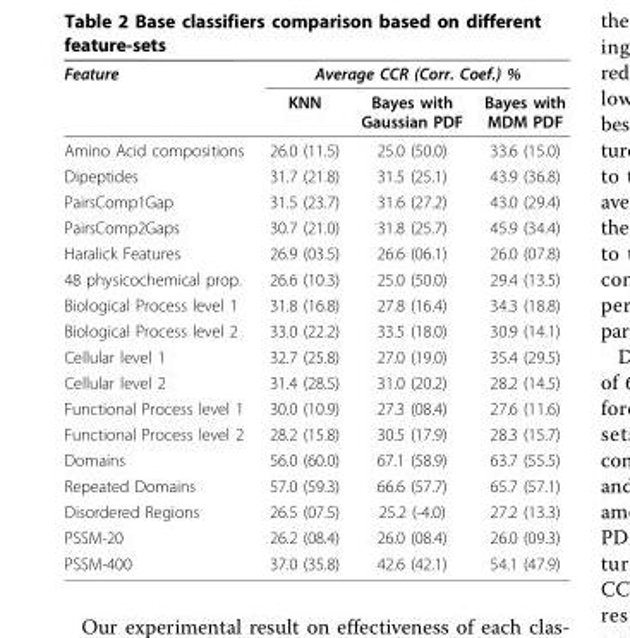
<table><thead><tr><td rowspan="2">Feature</td><td colspan="3">Average CCR (Corr. Coef.) %</td></tr><tr><td>KNN</td><td>Bayes with Gaussian PDF</td><td>Bayes with MDM PDF</td></tr></thead><tbody><tr><td>Amino Acid compositions</td><td>26.0 (11.5)</td><td>25.0 (50.0)</td><td>33.6 (15.0)</td></tr><tr><td>Dipeptides</td><td>31.7 (21.8)</td><td>31.5 (25.1)</td><td>43.9 (36.8)</td></tr><tr><td>PairsComp1Gap</td><td>31.5 (23.7)</td><td>31.6 (27.2)</td><td>43.0 (29.4)</td></tr><tr><td>PairsComp2Gaps</td><td>30.7 (21.0)</td><td>31.8 (25.7)</td><td>45.9 (34.4)</td></tr><tr><td>Haralick Features</td><td>26.9 (03.5)</td><td>26.6 (06.1)</td><td>26.0 (07.8)</td></tr><tr><td>48 physicochemical prop.</td><td>26.6 (10.3)</td><td>25.0 (50.0)</td><td>29.4 (13.5)</td></tr><tr><td>Biological Process level 1</td><td>31.8 (16.8)</td><td>27.8 (16.4)</td><td>34.3 (18.8)</td></tr><tr><td>Biological Process level 2</td><td>33.0 (22.2)</td><td>33.5 (18.0)</td><td>30.9 (14.1)</td></tr><tr><td>Cellular level 1</td><td>32.7 (25.8)</td><td>27.0 (19.0)</td><td>35.4 (29.5)</td></tr><tr><td>Cellular level 2</td><td>31.4 (28.5)</td><td>31.0 (20.2)</td><td>28.2 (14.5)</td></tr><tr><td>Functional Process level 1</td><td>30.0 (10.9)</td><td>27.3 (08.4)</td><td>27.6 (11.6)</td></tr><tr><td>Functional Process level 2</td><td>28.2 (15.8)</td><td>30.5 (17.9)</td><td>28.3 (15.7)</td></tr><tr><td>Domains</td><td>56.0 (60.0)</td><td>67.1 (58.9)</td><td>63.7 (55.5)</td></tr><tr><td>Repeated Domains</td><td>57.0 (59.3)</td><td>66.6 (57.7)</td><td>65.7 (57.1)</td></tr><tr><td>Disordered Regions</td><td>26.5 (07.5)</td><td>25.2 (-4.0)</td><td>27.2 (13.3)</td></tr><tr><td>PSSM-20</td><td>26.2 (08.4)</td><td>26.0 (08.4)</td><td>26.0 (09.3)</td></tr><tr><td>PSSM-400</td><td>37.0 (35.8)</td><td>42.6 (42.1)</td><td>54.1 (47.9)</td></tr></tbody></table>